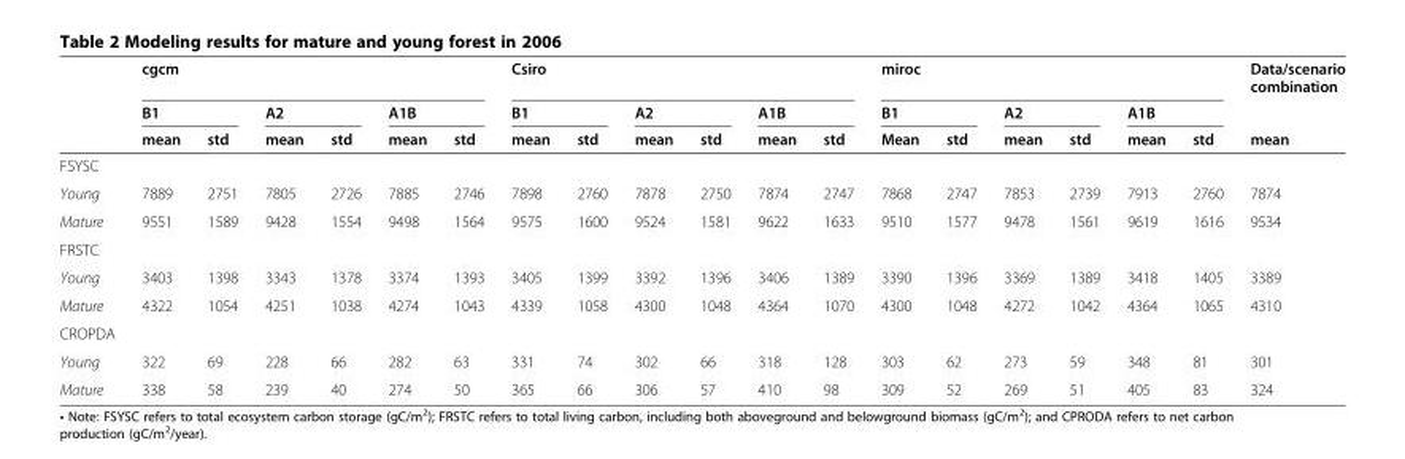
<table><thead><tr><td rowspan="3"></td><td colspan="6">cgcm</td><td colspan="6">Csiro</td><td colspan="5">miroc</td><td></td><td rowspan="3">Data/scenario combination mean</td></tr><tr><td colspan="2">B1</td><td colspan="2">A2</td><td colspan="2">A1B</td><td colspan="2">B1</td><td colspan="2">A2</td><td colspan="2">A1B</td><td colspan="2">B1</td><td colspan="2">A2</td><td colspan="2">A1B</td></tr><tr><td>mean</td><td>std</td><td>mean</td><td>std</td><td>mean</td><td>std</td><td>mean</td><td>std</td><td>mean</td><td>std</td><td>mean</td><td>std</td><td>Mean</td><td>std</td><td>mean</td><td>std</td><td>mean</td><td>std</td></tr></thead><tbody><tr><td colspan="20">FSYSC</td></tr><tr><td>Young</td><td>7889</td><td>2751</td><td>7805</td><td>2726</td><td>7885</td><td>2746</td><td>7898</td><td>2760</td><td>7878</td><td>2750</td><td>7874</td><td>2747</td><td>7868</td><td>2747</td><td>7853</td><td>2739</td><td>7913</td><td>2760</td><td>7874</td></tr><tr><td>Mature</td><td>9551</td><td>1589</td><td>9428</td><td>1554</td><td>9498</td><td>1564</td><td>9575</td><td>1600</td><td>9524</td><td>1581</td><td>9622</td><td>1633</td><td>9510</td><td>1577</td><td>9478</td><td>1561</td><td>9619</td><td>1616</td><td>9534</td></tr><tr><td colspan="20">FRSTC</td></tr><tr><td>Young</td><td>3403</td><td>1398</td><td>3343</td><td>1378</td><td>3374</td><td>1393</td><td>3405</td><td>1399</td><td>3392</td><td>1396</td><td>3406</td><td>1389</td><td>3390</td><td>1396</td><td>3369</td><td>1389</td><td>3418</td><td>1405</td><td>3389</td></tr><tr><td>Mature</td><td>4322</td><td>1054</td><td>4251</td><td>1038</td><td>4274</td><td>1043</td><td>4339</td><td>1058</td><td>4300</td><td>1048</td><td>4364</td><td>1070</td><td>4300</td><td>1048</td><td>4272</td><td>1042</td><td>4364</td><td>1065</td><td>4310</td></tr><tr><td colspan="20">CROPDA</td></tr><tr><td>Young</td><td>322</td><td>69</td><td>228</td><td>66</td><td>282</td><td>63</td><td>331</td><td>74</td><td>302</td><td>66</td><td>318</td><td>128</td><td>303</td><td>62</td><td>273</td><td>59</td><td>348</td><td>81</td><td>301</td></tr><tr><td>Mature</td><td>338</td><td>58</td><td>239</td><td>40</td><td>274</td><td>50</td><td>365</td><td>66</td><td>306</td><td>57</td><td>410</td><td>98</td><td>309</td><td>52</td><td>269</td><td>51</td><td>405</td><td>83</td><td>324</td></tr></tbody></table>